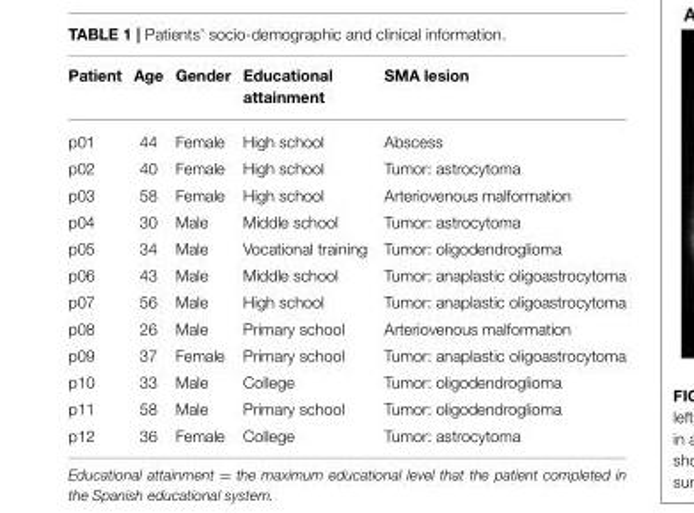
<table><thead><tr><td>Patient</td><td>Age</td><td>Gender</td><td>Educational attainment</td><td>SMA lesion</td></tr></thead><tbody><tr><td>p01</td><td>44</td><td>Female</td><td>High school</td><td>Abscess</td></tr><tr><td>p02</td><td>40</td><td>Female</td><td>High school</td><td>Tumor: astrocytoma</td></tr><tr><td>p03</td><td>58</td><td>Female</td><td>High school</td><td>Arteriovenous malformation</td></tr><tr><td>p04</td><td>30</td><td>Male</td><td>Middle school</td><td>Tumor: astrocytoma</td></tr><tr><td>p05</td><td>34</td><td>Male</td><td>Vocational training</td><td>Tumor: oligodendroglioma</td></tr><tr><td>p06</td><td>43</td><td>Male</td><td>Middle school</td><td>Tumor: anaplastic oligoastrocytoma</td></tr><tr><td>p07</td><td>56</td><td>Male</td><td>High school</td><td>Tumor: anaplastic oligoastrocytoma</td></tr><tr><td>p08</td><td>26</td><td>Male</td><td>Primary school</td><td>Arteriovenous malformation</td></tr><tr><td>p09</td><td>37</td><td>Female</td><td>Primary school</td><td>Tumor: anaplastic oligoastrocytoma</td></tr><tr><td>p10</td><td>33</td><td>Male</td><td>College</td><td>Tumor: oligodendroglioma</td></tr><tr><td>p11</td><td>58</td><td>Male</td><td>Primary school</td><td>Tumor: oligodendroglioma</td></tr><tr><td>p12</td><td>36</td><td>Female</td><td>College</td><td>Tumor: astrocytoma</td></tr></tbody></table>